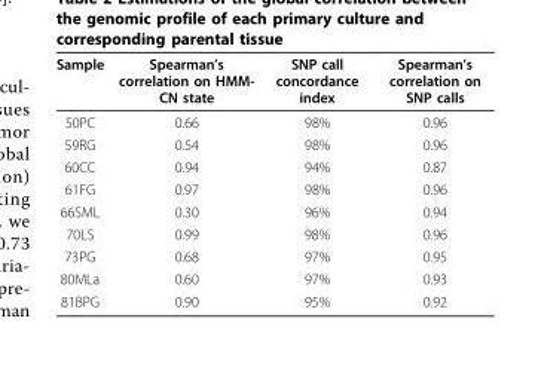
<table><thead><tr><td>Sample</td><td>Spearman’s correlation on HMM- CN state</td><td>SNP call concordance index</td><td>Spearman’s correlation on SNP calls</td></tr></thead><tbody><tr><td>50PC</td><td>0.66</td><td>98%</td><td>0.96</td></tr><tr><td>59RG</td><td>0.54</td><td>98%</td><td>0.96</td></tr><tr><td>60CC</td><td>0.94</td><td>94%</td><td>0.87</td></tr><tr><td>61FG</td><td>0.97</td><td>98%</td><td>0.96</td></tr><tr><td>66SML</td><td>0.30</td><td>96%</td><td>0.94</td></tr><tr><td>70LS</td><td>0.99</td><td>98%</td><td>0.96</td></tr><tr><td>73PG</td><td>0.68</td><td>97%</td><td>0.95</td></tr><tr><td>80MLa</td><td>0.60</td><td>97%</td><td>0.93</td></tr><tr><td>81BPG</td><td>0.90</td><td>95%</td><td>0.92</td></tr></tbody></table>